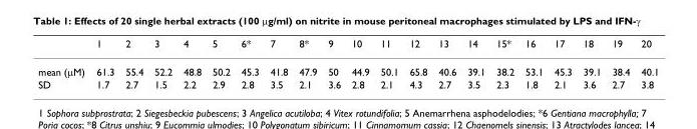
<table><thead><tr><td></td><td>1</td><td>2</td><td>3</td><td>4</td><td>5</td><td>6*</td><td>7</td><td>8*</td><td>9</td><td>10</td><td>11</td><td>12</td><td>13</td><td>14</td><td>15*</td><td>16</td><td>17</td><td>18</td><td>19</td><td>20</td></tr></thead><tbody><tr><td>mean (μM)</td><td>61.3</td><td>55.4</td><td>52.2</td><td>48.8</td><td>50.2</td><td>45.3</td><td>41.8</td><td>47.9</td><td>50</td><td>44.9</td><td>50.1</td><td>65.8</td><td>40.6</td><td>39.1</td><td>38.2</td><td>53.1</td><td>45.3</td><td>39.1</td><td>38.4</td><td>40.1</td></tr><tr><td>SD</td><td>1.7</td><td>2.7</td><td>1.5</td><td>2.2</td><td>2.9</td><td>2.8</td><td>3.5</td><td>2.1</td><td>3.6</td><td>2.8</td><td>2.1</td><td>4.3</td><td>2.7</td><td>3.5</td><td>2.3</td><td>1.8</td><td>2.1</td><td>3.6</td><td>2.7</td><td>3.8</td></tr></tbody></table>